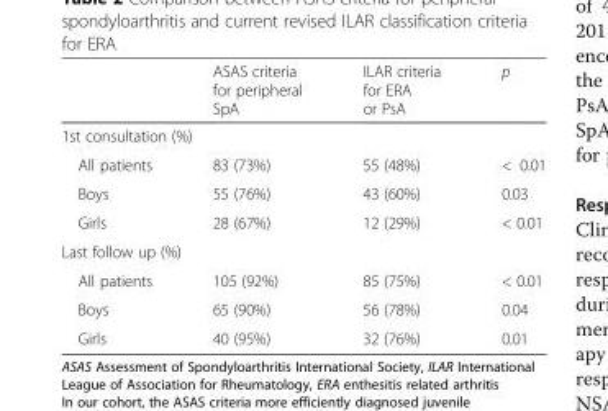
<table><thead><tr><td></td><td>ASAS criteria for peripheral SpA</td><td>ILAR criteria for ERA or PsA</td><td>p</td></tr></thead><tbody><tr><td colspan="4">1st consultation (%)</td></tr><tr><td>All patients</td><td>83 (73%)</td><td>55 (48%)</td><td>&lt; 0.01</td></tr><tr><td>Boys</td><td>55 (76%)</td><td>43 (60%)</td><td>0.03</td></tr><tr><td>Girls</td><td>28 (67%)</td><td>12 (29%)</td><td>&lt; 0.01</td></tr><tr><td colspan="4">Last follow up (%)</td></tr><tr><td>All patients</td><td>105 (92%)</td><td>85 (75%)</td><td>&lt; 0.01</td></tr><tr><td>Boys</td><td>65 (90%)</td><td>56 (78%)</td><td>0.04</td></tr><tr><td>Girls</td><td>40 (95%)</td><td>32 (76%)</td><td>0.01</td></tr></tbody></table>